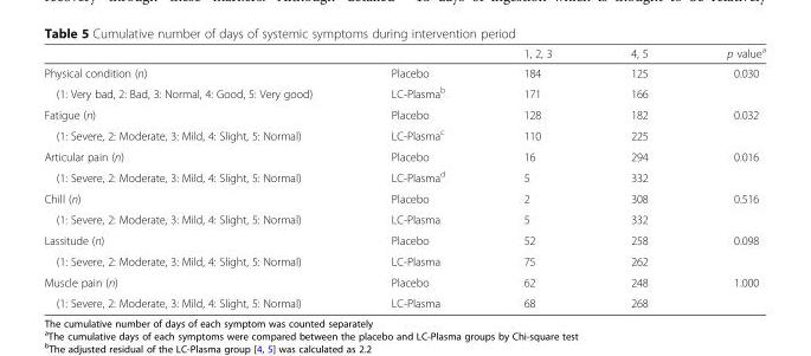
<table><thead><tr><td></td><td></td><td>1, 2, 3</td><td>4, 5</td><td>p value<sup>a</sup></td></tr></thead><tbody><tr><td>Physical condition (n)</td><td>Placebo</td><td>184</td><td>125</td><td>0.030</td></tr><tr><td>(1: Very bad, 2: Bad, 3: Normal, 4: Good, 5: Very good)</td><td>LC-Plasma<sup>b</sup></td><td>171</td><td>166</td><td></td></tr><tr><td>Fatigue (n)</td><td>Placebo</td><td>128</td><td>182</td><td>0.032</td></tr><tr><td>(1: Severe, 2: Moderate, 3: Mild, 4: Slight, 5: Normal)</td><td>LC-Plasma<sup>c</sup></td><td>110</td><td>225</td><td></td></tr><tr><td>Articular pain (n)</td><td>Placebo</td><td>16</td><td>294</td><td>0.016</td></tr><tr><td>(1: Severe, 2: Moderate, 3: Mild, 4: Slight, 5: Normal)</td><td>LC-Plasma<sup>d</sup></td><td>5</td><td>332</td><td></td></tr><tr><td>Chill (n)</td><td>Placebo</td><td>2</td><td>308</td><td>0.516</td></tr><tr><td>(1: Severe, 2: Moderate, 3: Mild, 4: Slight, 5: Normal)</td><td>LC-Plasma</td><td>5</td><td>332</td><td></td></tr><tr><td>Lassitude (n)</td><td>Placebo</td><td>52</td><td>258</td><td>0.098</td></tr><tr><td>(1: Severe, 2: Moderate, 3: Mild, 4: Slight, 5: Normal)</td><td>LC-Plasma</td><td>75</td><td>262</td><td></td></tr><tr><td>Muscle pain (n)</td><td>Placebo</td><td>62</td><td>248</td><td>1.000</td></tr><tr><td>(1: Severe, 2: Moderate, 3: Mild, 4: Slight, 5: Normal)</td><td>LC-Plasma</td><td>68</td><td>268</td><td></td></tr></tbody></table>